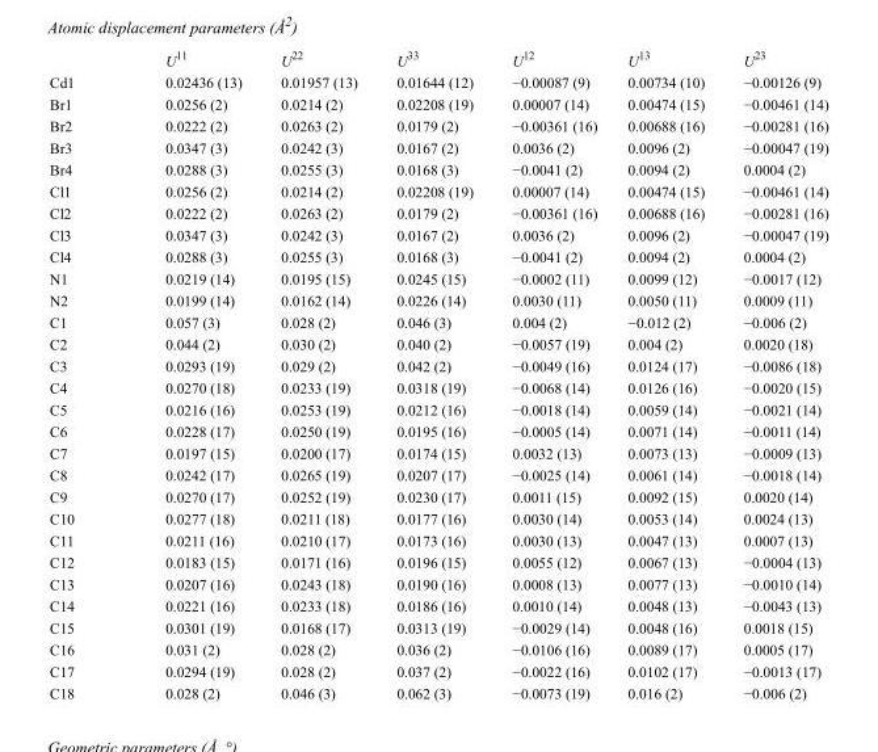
<table><thead><tr><td></td><td>U<sup>11</sup></td><td>U<sup>22</sup></td><td>U<sup>33</sup></td><td>U<sup>12</sup></td><td>U<sup>13</sup></td><td>U<sup>23</sup></td></tr></thead><tbody><tr><td>Cd1</td><td>0.02436 (13)</td><td>0.01957 (13)</td><td>0.01644 (12)</td><td>−0.00087 (9)</td><td>0.00734 (10)</td><td>−0.00126 (9)</td></tr><tr><td>Br1</td><td>0.0256 (2)</td><td>0.0214 (2)</td><td>0.02208 (19)</td><td>0.00007 (14)</td><td>0.00474 (15)</td><td>−0.00461 (14)</td></tr><tr><td>Br2</td><td>0.0222 (2)</td><td>0.0263 (2)</td><td>0.0179 (2)</td><td>−0.00361 (16)</td><td>0.00688 (16)</td><td>−0.00281 (16)</td></tr><tr><td>Br3</td><td>0.0347 (3)</td><td>0.0242 (3)</td><td>0.0167 (2)</td><td>0.0036 (2)</td><td>0.0096 (2)</td><td>−0.00047 (19)</td></tr><tr><td>Br4</td><td>0.0288 (3)</td><td>0.0255 (3)</td><td>0.0168 (3)</td><td>−0.0041 (2)</td><td>0.0094 (2)</td><td>0.0004 (2)</td></tr><tr><td>Cl1</td><td>0.0256 (2)</td><td>0.0214 (2)</td><td>0.02208 (19)</td><td>0.00007 (14)</td><td>0.00474 (15)</td><td>−0.00461 (14)</td></tr><tr><td>Cl2</td><td>0.0222 (2)</td><td>0.0263 (2)</td><td>0.0179 (2)</td><td>−0.00361 (16)</td><td>0.00688 (16)</td><td>−0.00281 (16)</td></tr><tr><td>Cl3</td><td>0.0347 (3)</td><td>0.0242 (3)</td><td>0.0167 (2)</td><td>0.0036 (2)</td><td>0.0096 (2)</td><td>−0.00047 (19)</td></tr><tr><td>Cl4</td><td>0.0288 (3)</td><td>0.0255 (3)</td><td>0.0168 (3)</td><td>−0.0041 (2)</td><td>0.0094 (2)</td><td>0.0004 (2)</td></tr><tr><td>N1</td><td>0.0219 (14)</td><td>0.0195 (15)</td><td>0.0245 (15)</td><td>−0.0002 (11)</td><td>0.0099 (12)</td><td>−0.0017 (12)</td></tr><tr><td>N2</td><td>0.0199 (14)</td><td>0.0162 (14)</td><td>0.0226 (14)</td><td>0.0030 (11)</td><td>0.0050 (11)</td><td>0.0009 (11)</td></tr><tr><td>C1</td><td>0.057 (3)</td><td>0.028 (2)</td><td>0.046 (3)</td><td>0.004 (2)</td><td>−0.012 (2)</td><td>−0.006 (2)</td></tr><tr><td>C2</td><td>0.044 (2)</td><td>0.030 (2)</td><td>0.040 (2)</td><td>−0.0057 (19)</td><td>0.004 (2)</td><td>0.0020 (18)</td></tr><tr><td>C3</td><td>0.0293 (19)</td><td>0.029 (2)</td><td>0.042 (2)</td><td>−0.0049 (16)</td><td>0.0124 (17)</td><td>−0.0086 (18)</td></tr><tr><td>C4</td><td>0.0270 (18)</td><td>0.0233 (19)</td><td>0.0318 (19)</td><td>−0.0068 (14)</td><td>0.0126 (16)</td><td>−0.0020 (15)</td></tr><tr><td>C5</td><td>0.0216 (16)</td><td>0.0253 (19)</td><td>0.0212 (16)</td><td>−0.0018 (14)</td><td>0.0059 (14)</td><td>−0.0021 (14)</td></tr><tr><td>C6</td><td>0.0228 (17)</td><td>0.0250 (19)</td><td>0.0195 (16)</td><td>−0.0005 (14)</td><td>0.0071 (14)</td><td>−0.0011 (14)</td></tr><tr><td>C7</td><td>0.0197 (15)</td><td>0.0200 (17)</td><td>0.0174 (15)</td><td>0.0032 (13)</td><td>0.0073 (13)</td><td>−0.0009 (13)</td></tr><tr><td>C8</td><td>0.0242 (17)</td><td>0.0265 (19)</td><td>0.0207 (17)</td><td>−0.0025 (14)</td><td>0.0061 (14)</td><td>−0.0018 (14)</td></tr><tr><td>C9</td><td>0.0270 (17)</td><td>0.0252 (19)</td><td>0.0230 (17)</td><td>0.0011 (15)</td><td>0.0092 (15)</td><td>0.0020 (14)</td></tr><tr><td>C10</td><td>0.0277 (18)</td><td>0.0211 (18)</td><td>0.0177 (16)</td><td>0.0030 (14)</td><td>0.0053 (14)</td><td>0.0024 (13)</td></tr><tr><td>C11</td><td>0.0211 (16)</td><td>0.0210 (17)</td><td>0.0173 (16)</td><td>0.0030 (13)</td><td>0.0047 (13)</td><td>0.0007 (13)</td></tr><tr><td>C12</td><td>0.0183 (15)</td><td>0.0171 (16)</td><td>0.0196 (15)</td><td>0.0055 (12)</td><td>0.0067 (13)</td><td>−0.0004 (13)</td></tr><tr><td>C13</td><td>0.0207 (16)</td><td>0.0243 (18)</td><td>0.0190 (16)</td><td>0.0008 (13)</td><td>0.0077 (13)</td><td>−0.0010 (14)</td></tr><tr><td>C14</td><td>0.0221 (16)</td><td>0.0233 (18)</td><td>0.0186 (16)</td><td>0.0010 (14)</td><td>0.0048 (13)</td><td>−0.0043 (13)</td></tr><tr><td>C15</td><td>0.0301 (19)</td><td>0.0168 (17)</td><td>0.0313 (19)</td><td>−0.0029 (14)</td><td>0.0048 (16)</td><td>0.0018 (15)</td></tr><tr><td>C16</td><td>0.031 (2)</td><td>0.028 (2)</td><td>0.036 (2)</td><td>−0.0106 (16)</td><td>0.0089 (17)</td><td>0.0005 (17)</td></tr><tr><td>C17</td><td>0.0294 (19)</td><td>0.028 (2)</td><td>0.037 (2)</td><td>−0.0022 (16)</td><td>0.0102 (17)</td><td>−0.0013 (17)</td></tr><tr><td>C18</td><td>0.028 (2)</td><td>0.046 (3)</td><td>0.062 (3)</td><td>−0.0073 (19)</td><td>0.016 (2)</td><td>−0.006 (2)</td></tr></tbody></table>